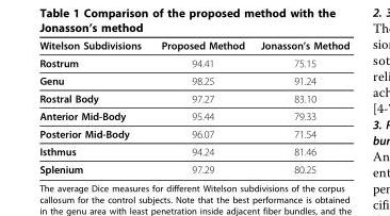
<table><thead><tr><td>Witelson Subdivisions</td><td>Proposed Method</td><td>Jonasson’s Method</td></tr></thead><tbody><tr><td>Rostrum</td><td>94.41</td><td>75.15</td></tr><tr><td>Genu</td><td>98.25</td><td>91.24</td></tr><tr><td>Rostral Body</td><td>97.27</td><td>83.10</td></tr><tr><td>Anterior Mid-Body</td><td>95.44</td><td>79.33</td></tr><tr><td>Posterior Mid-Body</td><td>96.07</td><td>71.54</td></tr><tr><td>Isthmus</td><td>94.24</td><td>81.46</td></tr><tr><td>Splenium</td><td>97.29</td><td>80.25</td></tr></tbody></table>